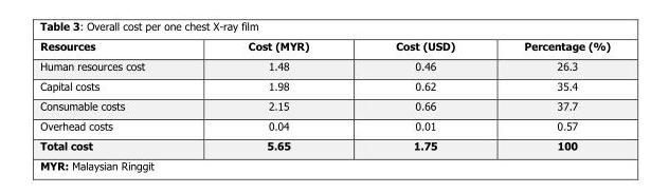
<table><thead><tr><td>Resources</td><td>Cost (MYR)</td><td>Cost (USD)</td><td>Percentage (%)</td></tr></thead><tbody><tr><td>Human resources cost</td><td>1.48</td><td>0.46</td><td>26.3</td></tr><tr><td>Capital costs</td><td>1.98</td><td>0.62</td><td>35.4</td></tr><tr><td>Consumable costs</td><td>2.15</td><td>0.66</td><td>37.7</td></tr><tr><td>Overhead costs</td><td>0.04</td><td>0.01</td><td>0.57</td></tr><tr><td>Total cost</td><td>5.65</td><td>1.75</td><td>100</td></tr></tbody></table>